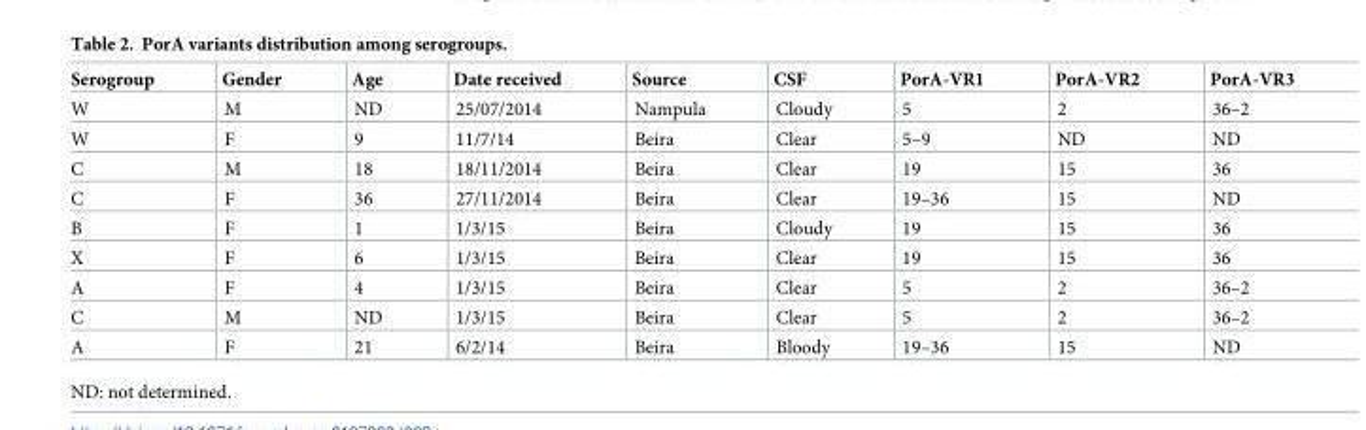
<table><thead><tr><td>Serogroup</td><td>Gender</td><td>Age</td><td>Date received</td><td>Source</td><td>CSF</td><td>PorA-VR1</td><td>PorA-VR2</td><td>PorA-VR3</td></tr></thead><tbody><tr><td>W</td><td>M</td><td>ND</td><td>25/07/2014</td><td>Nampula</td><td>Cloudy</td><td>5</td><td>2</td><td>36–2</td></tr><tr><td>W</td><td>F</td><td>9</td><td>11/7/14</td><td>Beira</td><td>Clear</td><td>5–9</td><td>ND</td><td>ND</td></tr><tr><td>C</td><td>M</td><td>18</td><td>18/11/2014</td><td>Beira</td><td>Clear</td><td>19</td><td>15</td><td>36</td></tr><tr><td>C</td><td>F</td><td>36</td><td>27/11/2014</td><td>Beira</td><td>Clear</td><td>19–36</td><td>15</td><td>ND</td></tr><tr><td>B</td><td>F</td><td>1</td><td>1/3/15</td><td>Beira</td><td>Cloudy</td><td>19</td><td>15</td><td>36</td></tr><tr><td>X</td><td>F</td><td>6</td><td>1/3/15</td><td>Beira</td><td>Clear</td><td>19</td><td>15</td><td>36</td></tr><tr><td>A</td><td>F</td><td>4</td><td>1/3/15</td><td>Beira</td><td>Clear</td><td>5</td><td>2</td><td>36–2</td></tr><tr><td>C</td><td>M</td><td>ND</td><td>1/3/15</td><td>Beira</td><td>Clear</td><td>5</td><td>2</td><td>36–2</td></tr><tr><td>A</td><td>F</td><td>21</td><td>6/2/14</td><td>Beira</td><td>Bloody</td><td>19–36</td><td>15</td><td>ND</td></tr></tbody></table>